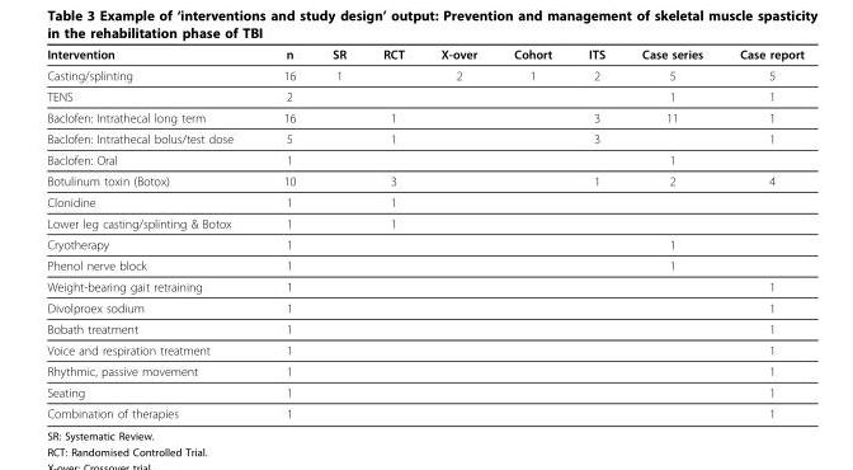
<table><thead><tr><td>Intervention</td><td>n</td><td>SR</td><td>RCT</td><td>X-over</td><td>Cohort</td><td>ITS</td><td>Case series</td><td>Case report</td></tr></thead><tbody><tr><td>Casting/splinting</td><td>16</td><td>1</td><td></td><td>2</td><td>1</td><td>2</td><td>5</td><td>5</td></tr><tr><td>TENS</td><td>2</td><td></td><td></td><td></td><td></td><td></td><td>1</td><td>1</td></tr><tr><td>Baclofen: Intrathecal long term</td><td>16</td><td></td><td>1</td><td></td><td></td><td>3</td><td>11</td><td>1</td></tr><tr><td>Baclofen: Intrathecal bolus/test dose</td><td>5</td><td></td><td>1</td><td></td><td></td><td>3</td><td></td><td>1</td></tr><tr><td>Baclofen: Oral</td><td>1</td><td></td><td></td><td></td><td></td><td></td><td>1</td><td></td></tr><tr><td>Botulinum toxin (Botox)</td><td>10</td><td></td><td>3</td><td></td><td></td><td>1</td><td>2</td><td>4</td></tr><tr><td>Clonidine</td><td>1</td><td></td><td>1</td><td></td><td></td><td></td><td></td><td></td></tr><tr><td>Lower leg casting/splinting &amp; Botox</td><td>1</td><td></td><td>1</td><td></td><td></td><td></td><td></td><td></td></tr><tr><td>Cryotherapy</td><td>1</td><td></td><td></td><td></td><td></td><td></td><td>1</td><td></td></tr><tr><td>Phenol nerve block</td><td>1</td><td></td><td></td><td></td><td></td><td></td><td>1</td><td></td></tr><tr><td>Weight-bearing gait retraining</td><td>1</td><td></td><td></td><td></td><td></td><td></td><td></td><td>1</td></tr><tr><td>Divolproex sodium</td><td>1</td><td></td><td></td><td></td><td></td><td></td><td></td><td>1</td></tr><tr><td>Bobath treatment</td><td>1</td><td></td><td></td><td></td><td></td><td></td><td></td><td>1</td></tr><tr><td>Voice and respiration treatment</td><td>1</td><td></td><td></td><td></td><td></td><td></td><td></td><td>1</td></tr><tr><td>Rhythmic, passive movement</td><td>1</td><td></td><td></td><td></td><td></td><td></td><td></td><td>1</td></tr><tr><td>Seating</td><td>1</td><td></td><td></td><td></td><td></td><td></td><td></td><td>1</td></tr><tr><td>Combination of therapies</td><td>1</td><td></td><td></td><td></td><td></td><td></td><td></td><td>1</td></tr></tbody></table>